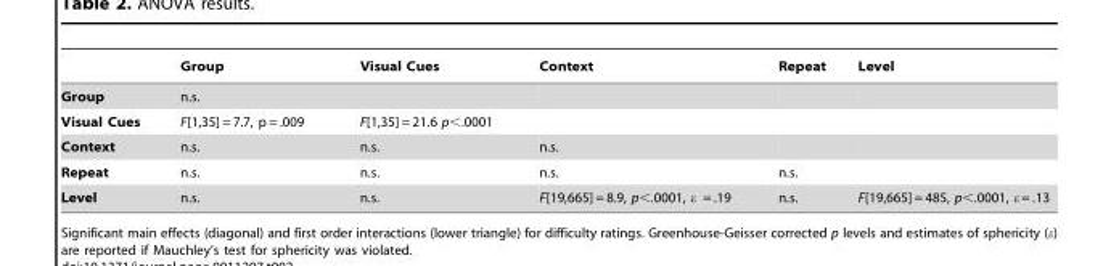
<table><thead><tr><td></td><td>Group</td><td>Visual Cues</td><td>Context</td><td>Repeat</td><td>Level</td></tr></thead><tbody><tr><td>Group</td><td>n.s.</td><td></td><td></td><td></td><td></td></tr><tr><td>Visual Cues</td><td>F[1,35] = 7.7, p = .009</td><td>F[1,35] = 21.6 p,.0001</td><td></td><td></td><td></td></tr><tr><td>Context</td><td>n.s.</td><td>n.s.</td><td>n.s.</td><td></td><td></td></tr><tr><td>Repeat</td><td>n.s.</td><td>n.s.</td><td>n.s.</td><td>n.s.</td><td></td></tr><tr><td>Level</td><td>n.s.</td><td>n.s.</td><td>F[19,665] = 8.9, p&lt;.0001, ε = .19</td><td>n.s.</td><td>F[19,665] = 485, p&lt;.0001, ε = .13</td></tr></tbody></table>